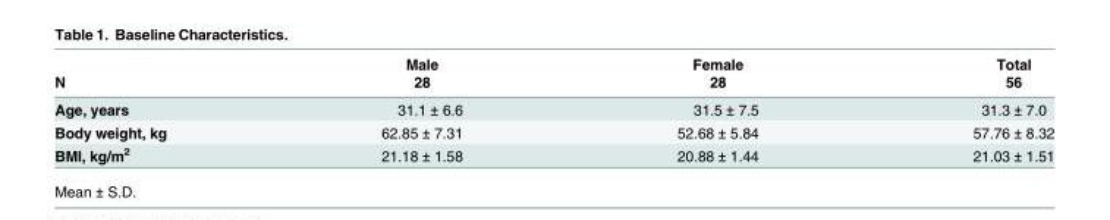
<table><thead><tr><td rowspan="2">N</td><td rowspan="2">Male 28</td><td rowspan="2">Female 28</td><td rowspan="2">Total 56</td></tr><tr></tr></thead><tbody><tr><td>Age, years</td><td>31.1 ± 6.6</td><td>31.5 ± 7.5</td><td>31.3 ± 7.0</td></tr><tr><td>Body weight, kg</td><td>62.85 ± 7.31</td><td>52.68 ± 5.84</td><td>57.76 ± 8.32</td></tr><tr><td>BMI, kg/m<sup>2</sup></td><td>21.18 ± 1.58</td><td>20.88 ± 1.44</td><td>21.03 ± 1.51</td></tr></tbody></table>